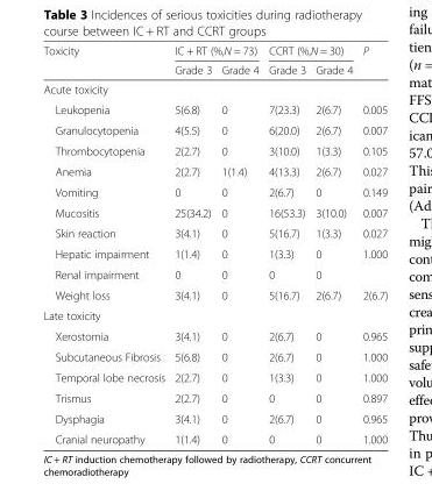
<table><thead><tr><td rowspan="2">Toxicity</td><td colspan="2">IC + RT (%,N = 73)</td><td colspan="2">CCRT (%,N = 30)</td><td rowspan="2">P</td></tr><tr><td>Grade 3</td><td>Grade 4</td><td>Grade 3</td><td>Grade 4</td></tr></thead><tbody><tr><td colspan="6">Acute toxicity</td></tr><tr><td>Leukopenia</td><td>5(6.8)</td><td>0</td><td>7(23.3)</td><td>2(6.7)</td><td>0.005</td></tr><tr><td>Granulocytopenia</td><td>4(5.5)</td><td>0</td><td>6(20.0)</td><td>2(6.7)</td><td>0.007</td></tr><tr><td>Thrombocytopenia</td><td>2(2.7)</td><td>0</td><td>3(10.0)</td><td>1(3.3)</td><td>0.105</td></tr><tr><td>Anemia</td><td>2(2.7)</td><td>1(1.4)</td><td>4(13.3)</td><td>2(6.7)</td><td>0.027</td></tr><tr><td>Vomiting</td><td>0</td><td>0</td><td>2(6.7)</td><td>0</td><td>0.149</td></tr><tr><td>Mucositis</td><td>25(34.2)</td><td>0</td><td>16(53.3)</td><td>3(10.0)</td><td>0.007</td></tr><tr><td>Skin reaction</td><td>3(4.1)</td><td>0</td><td>5(16.7)</td><td>1(3.3)</td><td>0.027</td></tr><tr><td>Hepatic impairment</td><td>1(1.4)</td><td>0</td><td>1(3.3)</td><td>0</td><td>1.000</td></tr><tr><td>Renal impairment</td><td>0</td><td>0</td><td>0</td><td>0</td><td></td></tr><tr><td>Weight loss</td><td>3(4.1)</td><td>0</td><td>5(16.7)</td><td>2(6.7)</td><td>2(6.7)</td></tr><tr><td colspan="6">Late toxicity</td></tr><tr><td>Xerostomia</td><td>3(4.1)</td><td>0</td><td>2(6.7)</td><td>0</td><td>0.965</td></tr><tr><td>Subcutaneous Fibrosis</td><td>5(6.8)</td><td>0</td><td>2(6.7)</td><td>0</td><td>1.000</td></tr><tr><td>Temporal lobe necrosis</td><td>2(2.7)</td><td>0</td><td>1(3.3)</td><td>0</td><td>1.000</td></tr><tr><td>Trismus</td><td>2(2.7)</td><td>0</td><td>0</td><td>0</td><td>0.897</td></tr><tr><td>Dysphagia</td><td>3(4.1)</td><td>0</td><td>2(6.7)</td><td>0</td><td>0.965</td></tr><tr><td>Cranial neuropathy</td><td>1(1.4)</td><td>0</td><td>0</td><td>0</td><td>1.000</td></tr></tbody></table>